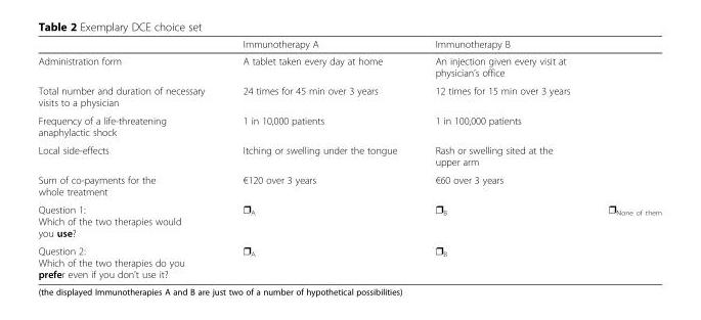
<table><thead><tr><td></td><td>Immunotherapy A</td><td>Immunotherapy B</td><td></td></tr></thead><tbody><tr><td>Administration form</td><td>A tablet taken every day at home</td><td>An injection given every visit at physician’s office</td><td></td></tr><tr><td>Total number and duration of necessary visits to a physician</td><td>24 times for 45 min over 3 years</td><td>12 times for 15 min over 3 years</td><td></td></tr><tr><td>Frequency of a life-threatening anaphylactic shock</td><td>1 in 10,000 patients</td><td>1 in 100,000 patients</td><td></td></tr><tr><td>Local side-effects</td><td>Itching or swelling under the tongue</td><td>Rash or swelling sited at the upper arm</td><td></td></tr><tr><td>Sum of co-payments for the whole treatment</td><td>€120 over 3 years</td><td>€60 over 3 years</td><td></td></tr><tr><td>Question 1: Which of the two therapies would you use?</td><td>❒<sub>A</sub></td><td>❒<sub>B</sub></td><td>❒<sub>None of them</sub></td></tr><tr><td>Question 2: Which of the two therapies do you prefer even if you don’t use it?</td><td>❒<sub>A</sub></td><td>❒<sub>B</sub></td><td></td></tr></tbody></table>